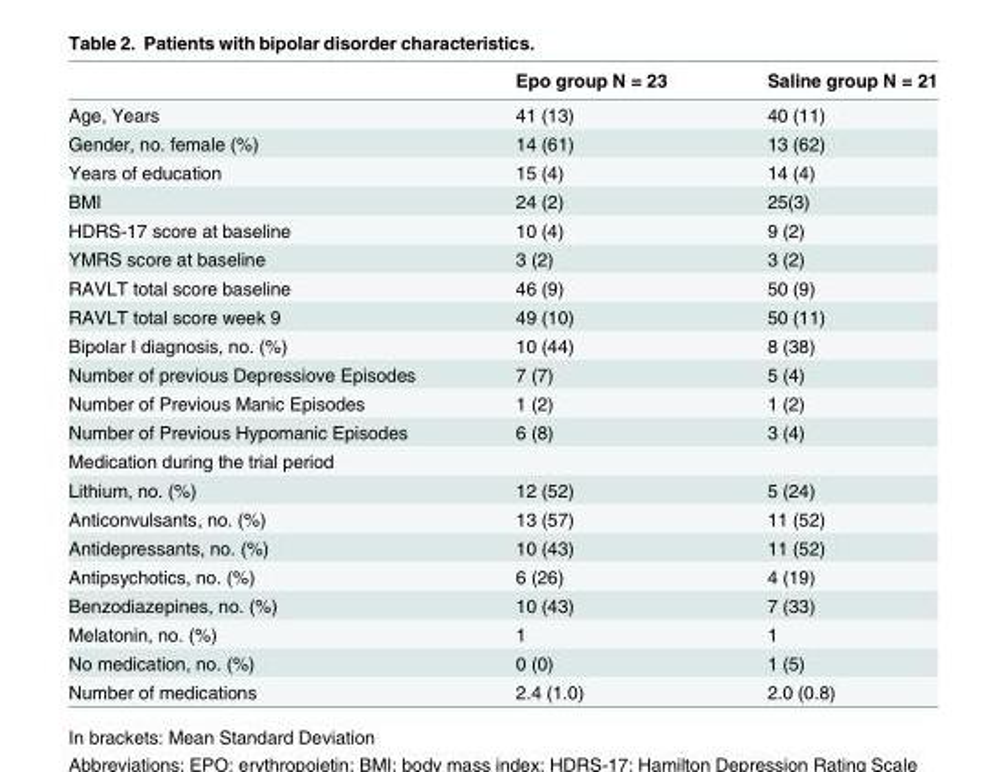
<table><thead><tr><td></td><td>Epo group N = 23</td><td>Saline group N = 21</td></tr></thead><tbody><tr><td>Age, Years</td><td>41 (13)</td><td>40 (11)</td></tr><tr><td>Gender, no. female (%)</td><td>14 (61)</td><td>13 (62)</td></tr><tr><td>Years of education</td><td>15 (4)</td><td>14 (4)</td></tr><tr><td>BMI</td><td>24 (2)</td><td>25(3)</td></tr><tr><td>HDRS-17 score at baseline</td><td>10 (4)</td><td>9 (2)</td></tr><tr><td>YMRS score at baseline</td><td>3 (2)</td><td>3 (2)</td></tr><tr><td>RAVLT total score baseline</td><td>46 (9)</td><td>50 (9)</td></tr><tr><td>RAVLT total score week 9</td><td>49 (10)</td><td>50 (11)</td></tr><tr><td>Bipolar I diagnosis, no. (%)</td><td>10 (44)</td><td>8 (38)</td></tr><tr><td>Number of previous Depressiove Episodes</td><td>7 (7)</td><td>5 (4)</td></tr><tr><td>Number of Previous Manic Episodes</td><td>1 (2)</td><td>1 (2)</td></tr><tr><td>Number of Previous Hypomanic Episodes</td><td>6 (8)</td><td>3 (4)</td></tr><tr><td colspan="3">Medication during the trial period</td></tr><tr><td>Lithium, no. (%)</td><td>12 (52)</td><td>5 (24)</td></tr><tr><td>Anticonvulsants, no. (%)</td><td>13 (57)</td><td>11 (52)</td></tr><tr><td>Antidepressants, no. (%)</td><td>10 (43)</td><td>11 (52)</td></tr><tr><td>Antipsychotics, no. (%)</td><td>6 (26)</td><td>4 (19)</td></tr><tr><td>Benzodiazepines, no. (%)</td><td>10 (43)</td><td>7 (33)</td></tr><tr><td>Melatonin, no. (%)</td><td>1</td><td>1</td></tr><tr><td>No medication, no. (%)</td><td>0 (0)</td><td>1 (5)</td></tr><tr><td>Number of medications</td><td>2.4 (1.0)</td><td>2.0 (0.8)</td></tr></tbody></table>